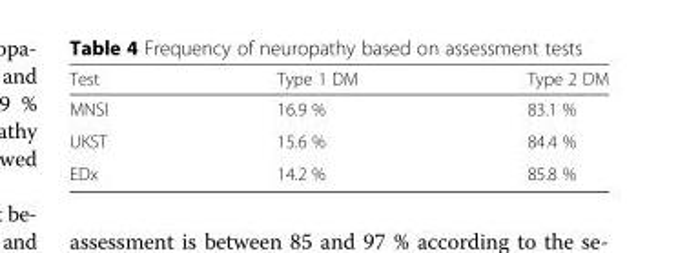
<table><thead><tr><td>Test</td><td>Type 1 DM</td><td>Type 2 DM</td></tr></thead><tbody><tr><td>MNSI</td><td>16.9 %</td><td>83.1 %</td></tr><tr><td>UKST</td><td>15.6 %</td><td>84.4 %</td></tr><tr><td>EDx</td><td>14.2 %</td><td>85.8 %</td></tr></tbody></table>